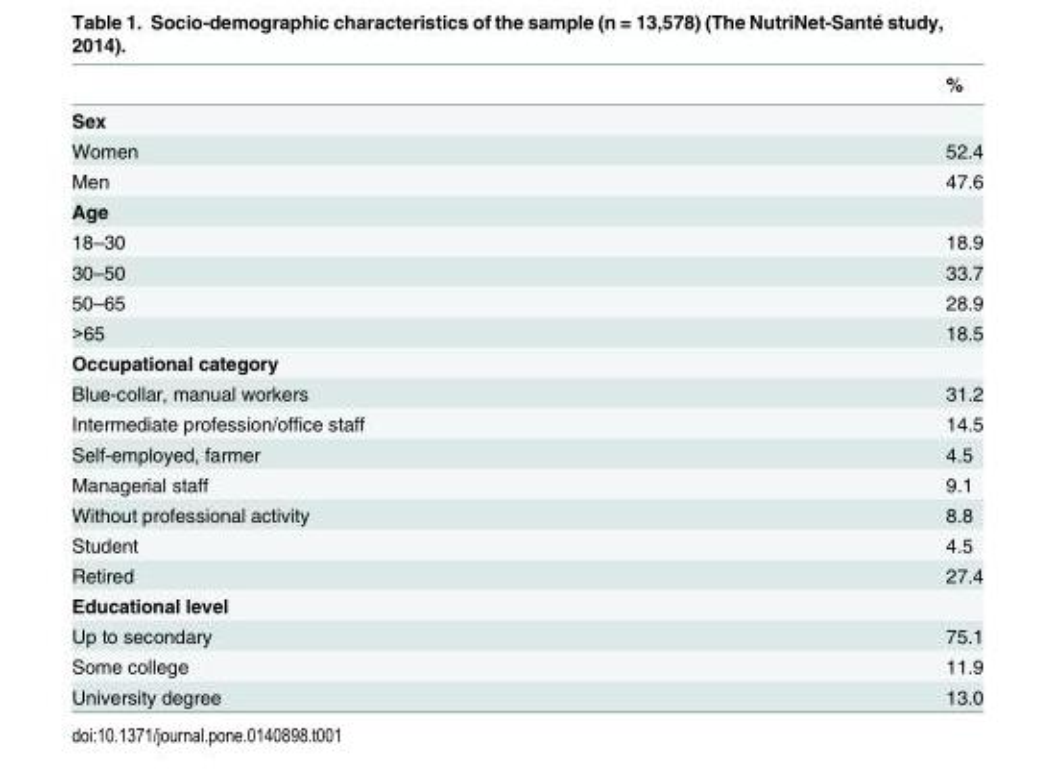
<table><thead><tr><td></td><td>%</td></tr></thead><tbody><tr><td colspan="2">Sex</td></tr><tr><td>Women</td><td>52.4</td></tr><tr><td>Men</td><td>47.6</td></tr><tr><td colspan="2">Age</td></tr><tr><td>18–30</td><td>18.9</td></tr><tr><td>30–50</td><td>33.7</td></tr><tr><td>50–65</td><td>28.9</td></tr><tr><td>&gt;65</td><td>18.5</td></tr><tr><td colspan="2">Occupational category</td></tr><tr><td>Blue-collar, manual workers</td><td>31.2</td></tr><tr><td>Intermediate profession/office staff</td><td>14.5</td></tr><tr><td>Self-employed, farmer</td><td>4.5</td></tr><tr><td>Managerial staff</td><td>9.1</td></tr><tr><td>Without professional activity</td><td>8.8</td></tr><tr><td>Student</td><td>4.5</td></tr><tr><td>Retired</td><td>27.4</td></tr><tr><td colspan="2">Educational level</td></tr><tr><td>Up to secondary</td><td>75.1</td></tr><tr><td>Some college</td><td>11.9</td></tr><tr><td>University degree</td><td>13.0</td></tr></tbody></table>